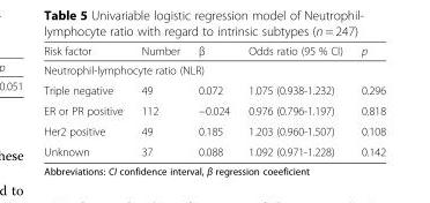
<table><thead><tr><td>Risk factor</td><td>Number</td><td>β</td><td>Odds ratio (95 % CI)</td><td>p</td></tr></thead><tbody><tr><td colspan="5">Neutrophil-lymphocyte ratio (NLR)</td></tr><tr><td>Triple negative</td><td>49</td><td>0.072</td><td>1.075 (0.938-1.232)</td><td>0.296</td></tr><tr><td>ER or PR positive</td><td>112</td><td>−0.024</td><td>0.976 (0.796-1.197)</td><td>0.818</td></tr><tr><td>Her2 positive</td><td>49</td><td>0.185</td><td>1.203 (0.960-1.507)</td><td>0.108</td></tr><tr><td>Unknown</td><td>37</td><td>0.088</td><td>1.092 (0.971-1.228)</td><td>0.142</td></tr></tbody></table>